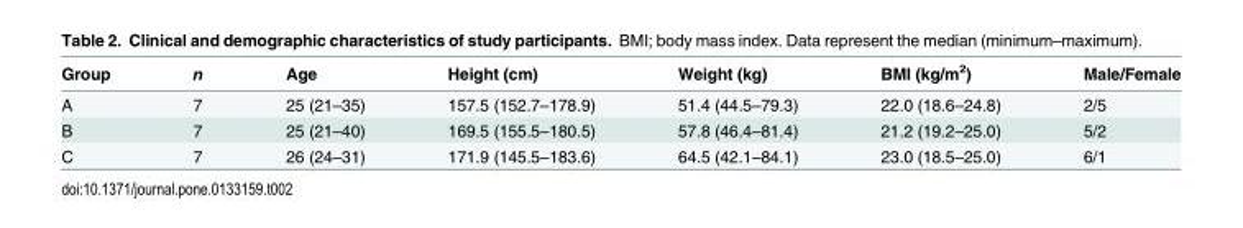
<table><thead><tr><td>Group</td><td>n</td><td>Age</td><td>Height (cm)</td><td>Weight (kg)</td><td>BMI (kg/m<sup>2</sup>)</td><td>Male/Female</td></tr></thead><tbody><tr><td>A</td><td>7</td><td>25 (21–35)</td><td>157.5 (152.7–178.9)</td><td>51.4 (44.5–79.3)</td><td>22.0 (18.6–24.8)</td><td>2/5</td></tr><tr><td>B</td><td>7</td><td>25 (21–40)</td><td>169.5 (155.5–180.5)</td><td>57.8 (46.4–81.4)</td><td>21.2 (19.2–25.0)</td><td>5/2</td></tr><tr><td>C</td><td>7</td><td>26 (24–31)</td><td>171.9 (145.5–183.6)</td><td>64.5 (42.1–84.1)</td><td>23.0 (18.5–25.0)</td><td>6/1</td></tr></tbody></table>